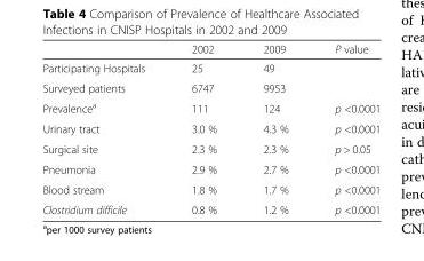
<table><thead><tr><td></td><td>2002</td><td>2009</td><td>P value</td></tr></thead><tbody><tr><td>Participating Hospitals</td><td>25</td><td>49</td><td></td></tr><tr><td>Surveyed patients</td><td>6747</td><td>9953</td><td></td></tr><tr><td>Prevalence<sup>a</sup></td><td>111</td><td>124</td><td>p &lt;0.0001</td></tr><tr><td>Urinary tract</td><td>3.0 %</td><td>4.3 %</td><td>p &lt;0.0001</td></tr><tr><td>Surgical site</td><td>2.3 %</td><td>2.3 %</td><td>p &gt; 0.05</td></tr><tr><td>Pneumonia</td><td>2.9 %</td><td>2.7 %</td><td>p &lt;0.0001</td></tr><tr><td>Blood stream</td><td>1.8 %</td><td>1.7 %</td><td>p &lt;0.0001</td></tr><tr><td>Clostridium difficile</td><td>0.8 %</td><td>1.2 %</td><td>p &lt;0.0001</td></tr></tbody></table>